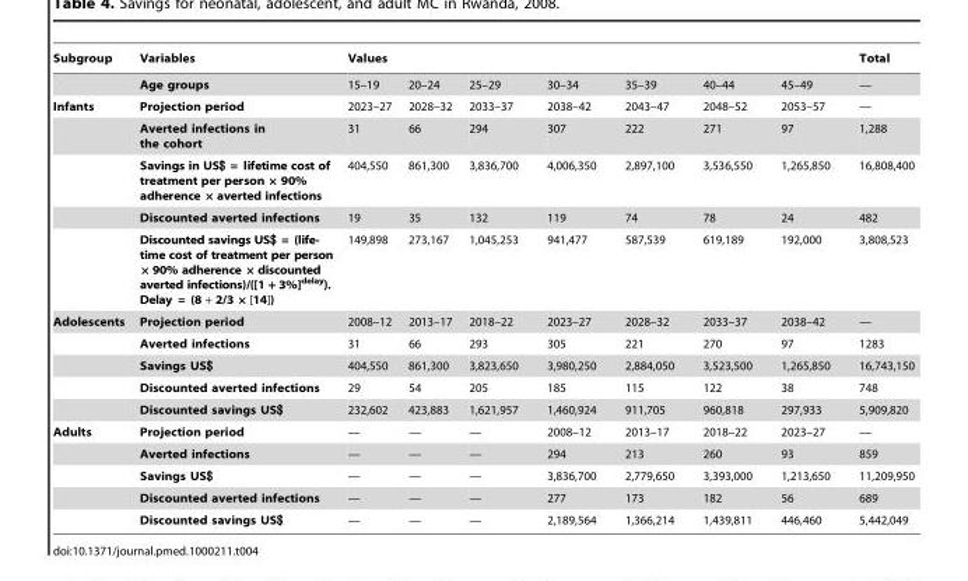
<table><thead><tr><td rowspan="2">Subgroup</td><td rowspan="2">Variables Age groups</td><td colspan="7">Values</td><td rowspan="2">Total —</td></tr><tr><td>15–19</td><td>20–24</td><td>25–29</td><td>30–34</td><td>35–39</td><td>40–44</td><td>45–49</td></tr></thead><tbody><tr><td rowspan="5">Infants</td><td>Projection period</td><td>2023–27</td><td>2028–32</td><td>2033–37</td><td>2038–42</td><td>2043–47</td><td>2048–52</td><td>2053–57</td><td>—</td></tr><tr><td>Averted infections in the cohort</td><td>31</td><td>66</td><td>294</td><td>307</td><td>222</td><td>271</td><td>97</td><td>1,288</td></tr><tr><td>Savings in US$ = lifetime cost of treatment per person ×90% adherence ×averted infections</td><td>404,550</td><td>861,300</td><td>3,836,700</td><td>4,006,350</td><td>2,897,100</td><td>3,536,550</td><td>1,265,850</td><td>16,808,400</td></tr><tr><td>Discounted averted infections</td><td>19</td><td>35</td><td>132</td><td>119</td><td>74</td><td>78</td><td>24</td><td>482</td></tr><tr><td>Discounted savings US$ = (life- time cost of treatment per person 690% adherence 6discounted averted infections)/([1 + 3%]delay). Delay = (8 + 2/3 6[14])</td><td>149,898</td><td>273,167</td><td>1,045,253</td><td>941,477</td><td>587,539</td><td>619,189</td><td>192,000</td><td>3,808,523</td></tr><tr><td rowspan="5">Adolescents</td><td>Projection period</td><td>2008–12</td><td>2013–17</td><td>2018–22</td><td>2023–27</td><td>2028–32</td><td>2033–37</td><td>2038–42</td><td>—</td></tr><tr><td>Averted infections</td><td>31</td><td>66</td><td>293</td><td>305</td><td>221</td><td>270</td><td>97</td><td>1283</td></tr><tr><td>Savings US$</td><td>404,550</td><td>861,300</td><td>3,823,650</td><td>3,980,250</td><td>2,884,050</td><td>3,523,500</td><td>1,265,850</td><td>16,743,150</td></tr><tr><td>Discounted averted infections</td><td>29</td><td>54</td><td>205</td><td>185</td><td>115</td><td>122</td><td>38</td><td>748</td></tr><tr><td>Discounted savings US$</td><td>232,602</td><td>423,883</td><td>1,621,957</td><td>1,460,924</td><td>911,705</td><td>960,818</td><td>297,933</td><td>5,909,820</td></tr><tr><td rowspan="5">Adults</td><td>Projection period</td><td>—</td><td>—</td><td>—</td><td>2008–12</td><td>2013–17</td><td>2018–22</td><td>2023–27</td><td>—</td></tr><tr><td>Averted infections</td><td>—</td><td>—</td><td>—</td><td>294</td><td>213</td><td>260</td><td>93</td><td>859</td></tr><tr><td>Savings US$</td><td>—</td><td>—</td><td>—</td><td>3,836,700</td><td>2,779,650</td><td>3,393,000</td><td>1,213,650</td><td>11,209,950</td></tr><tr><td>Discounted averted infections</td><td>—</td><td>—</td><td>—</td><td>277</td><td>173</td><td>182</td><td>56</td><td>689</td></tr><tr><td>Discounted savings US$</td><td>—</td><td>—</td><td>—</td><td>2,189,564</td><td>1,366,214</td><td>1,439,811</td><td>446,460</td><td>5,442,049</td></tr></tbody></table>